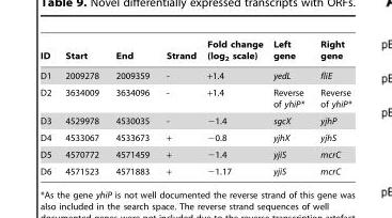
<table><thead><tr><td>ID</td><td>Start</td><td>End</td><td>Strand</td><td>Fold change (log<sub>2</sub> scale)</td><td>Left gene</td><td>Right gene</td></tr></thead><tbody><tr><td>D1</td><td>2009278</td><td>2009359</td><td>-</td><td>+1.4</td><td>yedL</td><td>fliE</td></tr><tr><td>D2</td><td>3634009</td><td>3634096</td><td>-</td><td>+1.4</td><td>Reverse of yhiP*</td><td>Reverse of yhiP*</td></tr><tr><td>D3</td><td>4529978</td><td>4530035</td><td>-</td><td>−1.4</td><td>sgcX</td><td>yjhP</td></tr><tr><td>D4</td><td>4533067</td><td>4533673</td><td>+</td><td>−0.8</td><td>yjhX</td><td>yjhS</td></tr><tr><td>D5</td><td>4570772</td><td>4571459</td><td>+</td><td>−1.4</td><td>yjiS</td><td>mcrC</td></tr><tr><td>D6</td><td>4571523</td><td>4571883</td><td>+</td><td>−1.17</td><td>yjiS</td><td>mcrC</td></tr></tbody></table>